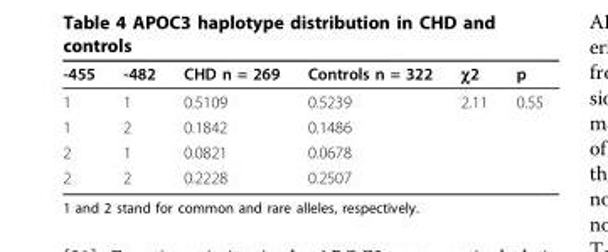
<table><thead><tr><td>-455</td><td>-482</td><td>CHD n = 269</td><td>Controls n = 322</td><td>χ2</td><td>p</td></tr></thead><tbody><tr><td>1</td><td>1</td><td>0.5109</td><td>0.5239</td><td>2.11</td><td>0.55</td></tr><tr><td>1</td><td>2</td><td>0.1842</td><td>0.1486</td><td></td><td></td></tr><tr><td>2</td><td>1</td><td>0.0821</td><td>0.0678</td><td></td><td></td></tr><tr><td>2</td><td>2</td><td>0.2228</td><td>0.2507</td><td></td><td></td></tr></tbody></table>